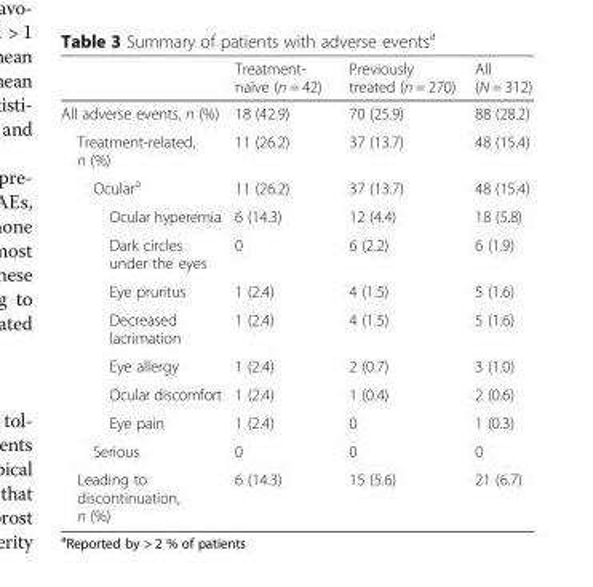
<table><thead><tr><td></td><td>Treatment- naïve (n = 42)</td><td>Previously treated (n = 270)</td><td>All (N = 312)</td></tr></thead><tbody><tr><td>All adverse events, n (%)</td><td>18 (42.9)</td><td>70 (25.9)</td><td>88 (28.2)</td></tr><tr><td>Treatment-related, n (%)</td><td>11 (26.2)</td><td>37 (13.7)</td><td>48 (15.4)</td></tr><tr><td>Ocular<sup>a</sup></td><td>11 (26.2)</td><td>37 (13.7)</td><td>48 (15.4)</td></tr><tr><td>Ocular hyperemia</td><td>6 (14.3)</td><td>12 (4.4)</td><td>18 (5.8)</td></tr><tr><td>Dark circles under the eyes</td><td>0</td><td>6 (2.2)</td><td>6 (1.9)</td></tr><tr><td>Eye pruritus</td><td>1 (2.4)</td><td>4 (1.5)</td><td>5 (1.6)</td></tr><tr><td>Decreased lacrimation</td><td>1 (2.4)</td><td>4 (1.5)</td><td>5 (1.6)</td></tr><tr><td>Eye allergy</td><td>1 (2.4)</td><td>2 (0.7)</td><td>3 (1.0)</td></tr><tr><td>Ocular discomfort</td><td>1 (2.4)</td><td>1 (0.4)</td><td>2 (0.6)</td></tr><tr><td>Eye pain</td><td>1 (2.4)</td><td>0</td><td>1 (0.3)</td></tr><tr><td>Serious</td><td>0</td><td>0</td><td>0</td></tr><tr><td>Leading to discontinuation, n (%)</td><td>6 (14.3)</td><td>15 (5.6)</td><td>21 (6.7)</td></tr></tbody></table>